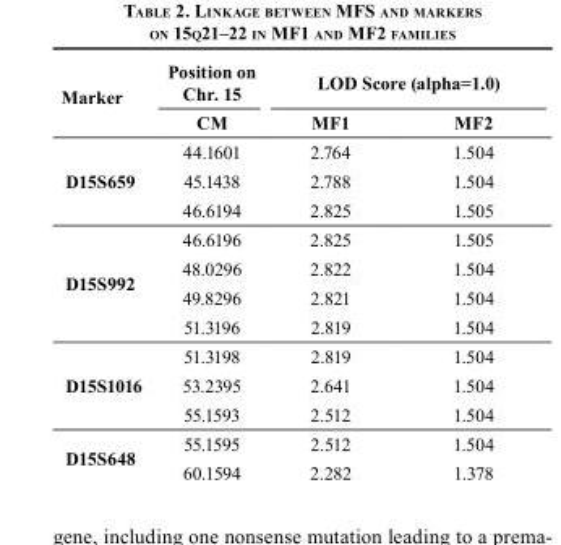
<table><thead><tr><td rowspan="2">Marker</td><td rowspan="2">Position on Chr. 15 CM</td><td colspan="2">LOD Score (alpha=1.0)</td></tr><tr><td>MF1</td><td>MF2</td></tr></thead><tbody><tr><td rowspan="3">D15S659</td><td>44.1601</td><td>2.764</td><td>1.504</td></tr><tr><td>45.1438</td><td>2.788</td><td>1.504</td></tr><tr><td>46.6194</td><td>2.825</td><td>1.505</td></tr><tr><td rowspan="4">D15S992</td><td>46.6196</td><td>2.825</td><td>1.505</td></tr><tr><td>48.0296</td><td>2.822</td><td>1.504</td></tr><tr><td>49.8296</td><td>2.821</td><td>1.504</td></tr><tr><td>51.3196</td><td>2.819</td><td>1.504</td></tr><tr><td rowspan="3">D15S1016</td><td>51.3198</td><td>2.819</td><td>1.504</td></tr><tr><td>53.2395</td><td>2.641</td><td>1.504</td></tr><tr><td>55.1593</td><td>2.512</td><td>1.504</td></tr><tr><td rowspan="2">D15S648</td><td>55.1595</td><td>2.512</td><td>1.504</td></tr><tr><td>60.1594</td><td>2.282</td><td>1.378</td></tr></tbody></table>